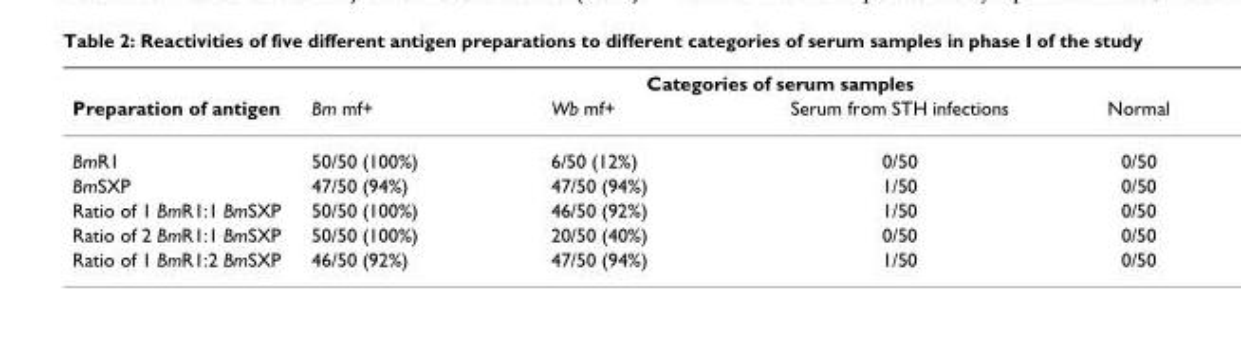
<table><thead><tr><td rowspan="2">Preparation of antigen</td><td colspan="4">Categories of serum samples</td></tr><tr><td>Bm mf+</td><td>Wb mf+</td><td>Serum from STH infections</td><td>Normal</td></tr></thead><tbody><tr><td>BmR1</td><td>50/50 (100%)</td><td>6/50 (12%)</td><td>0/50</td><td>0/50</td></tr><tr><td>BmSXP</td><td>47/50 (94%)</td><td>47/50 (94%)</td><td>1/50</td><td>0/50</td></tr><tr><td>Ratio of 1 BmR1:1 BmSXP</td><td>50/50 (100%)</td><td>46/50 (92%)</td><td>1/50</td><td>0/50</td></tr><tr><td>Ratio of 2 BmR1:1 BmSXP</td><td>50/50 (100%)</td><td>20/50 (40%)</td><td>0/50</td><td>0/50</td></tr><tr><td>Ratio of 1 BmR1:2 BmSXP</td><td>46/50 (92%)</td><td>47/50 (94%)</td><td>1/50</td><td>0/50</td></tr></tbody></table>